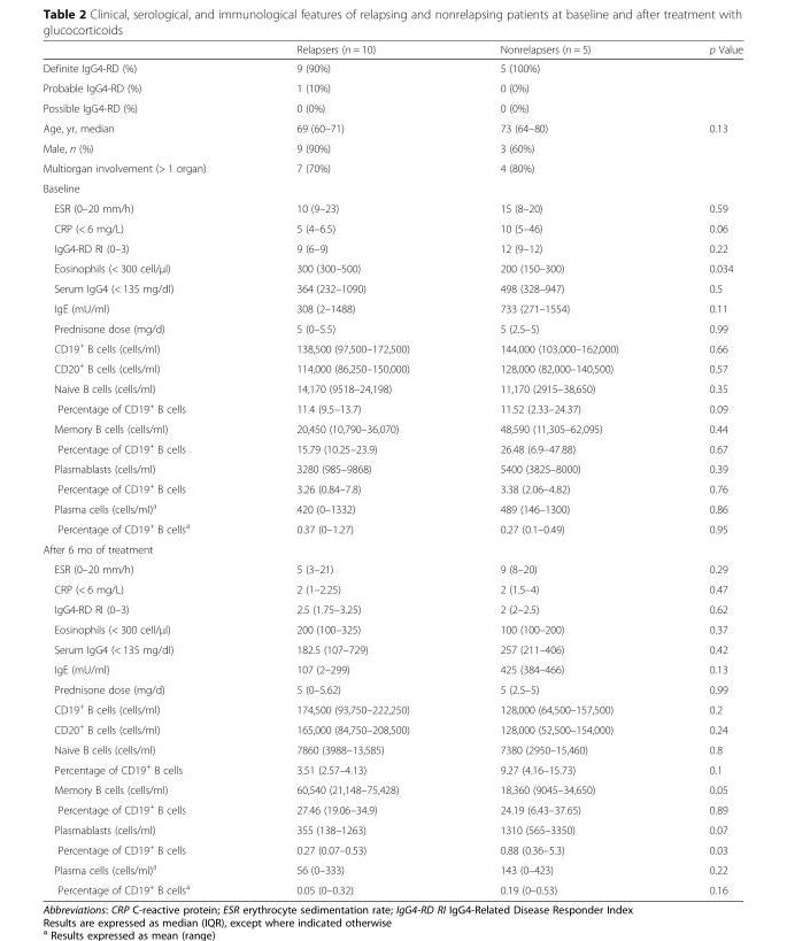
<table><thead><tr><td></td><td>Relapsers (n = 10)</td><td>Nonrelapsers (n = 5)</td><td>p Value</td></tr></thead><tbody><tr><td>Definite IgG4-RD (%)</td><td>9 (90%)</td><td>5 (100%)</td><td></td></tr><tr><td>Probable IgG4-RD (%)</td><td>1 (10%)</td><td>0 (0%)</td><td></td></tr><tr><td>Possible IgG4-RD (%)</td><td>0 (0%)</td><td>0 (0%)</td><td></td></tr><tr><td>Age, yr, median</td><td>69 (60–71)</td><td>73 (64–80)</td><td>0.13</td></tr><tr><td>Male, n (%)</td><td>9 (90%)</td><td>3 (60%)</td><td></td></tr><tr><td>Multiorgan involvement (&gt; 1 organ)</td><td>7 (70%)</td><td>4 (80%)</td><td></td></tr><tr><td colspan="4">Baseline</td></tr><tr><td>ESR (0–20 mm/h)</td><td>10 (9–23)</td><td>15 (8–20)</td><td>0.59</td></tr><tr><td>CRP (&lt; 6 mg/L)</td><td>5 (4–6.5)</td><td>10 (5–46)</td><td>0.06</td></tr><tr><td>IgG4-RD RI (0–3)</td><td>9 (6–9)</td><td>12 (9–12)</td><td>0.22</td></tr><tr><td>Eosinophils (&lt; 300 cell/μl)</td><td>300 (300–500)</td><td>200 (150–300)</td><td>0.034</td></tr><tr><td>Serum IgG4 (&lt; 135 mg/dl)</td><td>364 (232–1090)</td><td>498 (328–947)</td><td>0.5</td></tr><tr><td>IgE (mU/ml)</td><td>308 (2–1488)</td><td>733 (271–1554)</td><td>0.11</td></tr><tr><td>Prednisone dose (mg/d)</td><td>5 (0–5.5)</td><td>5 (2.5–5)</td><td>0.99</td></tr><tr><td>CD19<sup>+</sup> B cells (cells/ml)</td><td>138,500 (97,500–172,500)</td><td>144,000 (103,000–162,000)</td><td>0.66</td></tr><tr><td>CD20<sup>+</sup> B cells (cells/ml)</td><td>114,000 (86,250–150,000)</td><td>128,000 (82,000–140,500)</td><td>0.57</td></tr><tr><td>Naive B cells (cells/ml)</td><td>14,170 (9518–24,198)</td><td>11,170 (2915–38,650)</td><td>0.35</td></tr><tr><td>Percentage of CD19<sup>+</sup> B cells</td><td>11.4 (9.5–13.7)</td><td>11.52 (2.33–24.37)</td><td>0.09</td></tr><tr><td>Memory B cells (cells/ml)</td><td>20,450 (10,790–36,070)</td><td>48,590 (11,305–62,095)</td><td>0.44</td></tr><tr><td>Percentage of CD19<sup>+</sup> B cells</td><td>15.79 (10.25–23.9)</td><td>26.48 (6.9–47.88)</td><td>0.67</td></tr><tr><td>Plasmablasts (cells/ml)</td><td>3280 (985–9868)</td><td>5400 (3825–8000)</td><td>0.39</td></tr><tr><td>Percentage of CD19<sup>+</sup> B cells</td><td>3.26 (0.84–7.8)</td><td>3.38 (2.06–4.82)</td><td>0.76</td></tr><tr><td>Plasma cells (cells/ml)<sup>a</sup></td><td>420 (0–1332)</td><td>489 (146–1300)</td><td>0.86</td></tr><tr><td>Percentage of CD19<sup>+</sup> B cells<sup>a</sup></td><td>0.37 (0–1.27)</td><td>0.27 (0.1–0.49)</td><td>0.95</td></tr><tr><td colspan="4">After 6 mo of treatment</td></tr><tr><td>ESR (0–20 mm/h)</td><td>5 (3–21)</td><td>9 (8–20)</td><td>0.29</td></tr><tr><td>CRP (&lt; 6 mg/L)</td><td>2 (1–2.25)</td><td>2 (1.5–4)</td><td>0.47</td></tr><tr><td>IgG4-RD RI (0–3)</td><td>2.5 (1.75–3.25)</td><td>2 (2–2.5)</td><td>0.62</td></tr><tr><td>Eosinophils (&lt; 300 cell/μl)</td><td>200 (100–325)</td><td>100 (100–200)</td><td>0.37</td></tr><tr><td>Serum IgG4 (&lt; 135 mg/dl)</td><td>182.5 (107–729)</td><td>257 (211–406)</td><td>0.42</td></tr><tr><td>IgE (mU/ml)</td><td>107 (2–299)</td><td>425 (384–466)</td><td>0.13</td></tr><tr><td>Prednisone dose (mg/d)</td><td>5 (0–5.62)</td><td>5 (2.5–5)</td><td>0.99</td></tr><tr><td>CD19<sup>+</sup> B cells (cells/ml)</td><td>174,500 (93,750–222,250)</td><td>128,000 (64,500–157,500)</td><td>0.2</td></tr><tr><td>CD20<sup>+</sup> B cells (cells/ml)</td><td>165,000 (84,750–208,500)</td><td>128,000 (52,500–154,000)</td><td>0.24</td></tr><tr><td>Naive B cells (cells/ml)</td><td>7860 (3988–13,585)</td><td>7380 (2950–15,460)</td><td>0.8</td></tr><tr><td>Percentage of CD19<sup>+</sup> B cells</td><td>3.51 (2.57–4.13)</td><td>9.27 (4.16–15.73)</td><td>0.1</td></tr><tr><td>Memory B cells (cells/ml)</td><td>60,540 (21,148–75,428)</td><td>18,360 (9045–34,650)</td><td>0.05</td></tr><tr><td>Percentage of CD19<sup>+</sup> B cells</td><td>27.46 (19.06–34.9)</td><td>24.19 (6.43–37.65)</td><td>0.89</td></tr><tr><td>Plasmablasts (cells/ml)</td><td>355 (138–1263)</td><td>1310 (565–3350)</td><td>0.07</td></tr><tr><td>Percentage of CD19<sup>+</sup> B cells</td><td>0.27 (0.07–0.53)</td><td>0.88 (0.36–5.3)</td><td>0.03</td></tr><tr><td>Plasma cells (cells/ml)<sup>a</sup></td><td>56 (0–333)</td><td>143 (0–423)</td><td>0.22</td></tr><tr><td>Percentage of CD19<sup>+</sup> B cells<sup>a</sup></td><td>0.05 (0–0.32)</td><td>0.19 (0–0.53)</td><td>0.16</td></tr></tbody></table>